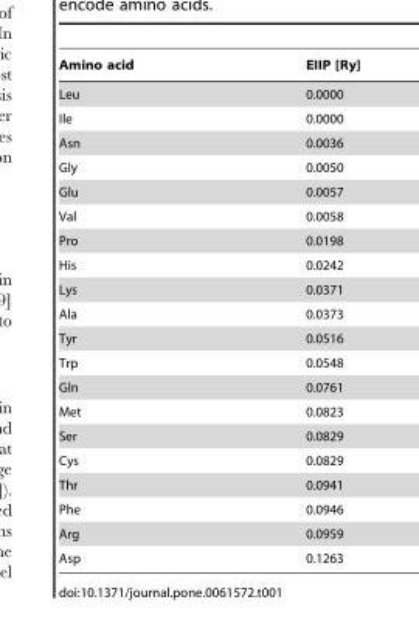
<table><thead><tr><td>Amino acid</td><td>EIIP [Ry]</td></tr></thead><tbody><tr><td>Leu</td><td>0.0000</td></tr><tr><td>Ile</td><td>0.0000</td></tr><tr><td>Asn</td><td>0.0036</td></tr><tr><td>Gly</td><td>0.0050</td></tr><tr><td>Glu</td><td>0.0057</td></tr><tr><td>Val</td><td>0.0058</td></tr><tr><td>Pro</td><td>0.0198</td></tr><tr><td>His</td><td>0.0242</td></tr><tr><td>Lys</td><td>0.0371</td></tr><tr><td>Ala</td><td>0.0373</td></tr><tr><td>Tyr</td><td>0.0516</td></tr><tr><td>Trp</td><td>0.0548</td></tr><tr><td>Gln</td><td>0.0761</td></tr><tr><td>Met</td><td>0.0823</td></tr><tr><td>Ser</td><td>0.0829</td></tr><tr><td>Cys</td><td>0.0829</td></tr><tr><td>Thr</td><td>0.0941</td></tr><tr><td>Phe</td><td>0.0946</td></tr><tr><td>Arg</td><td>0.0959</td></tr><tr><td>Asp</td><td>0.1263</td></tr></tbody></table>